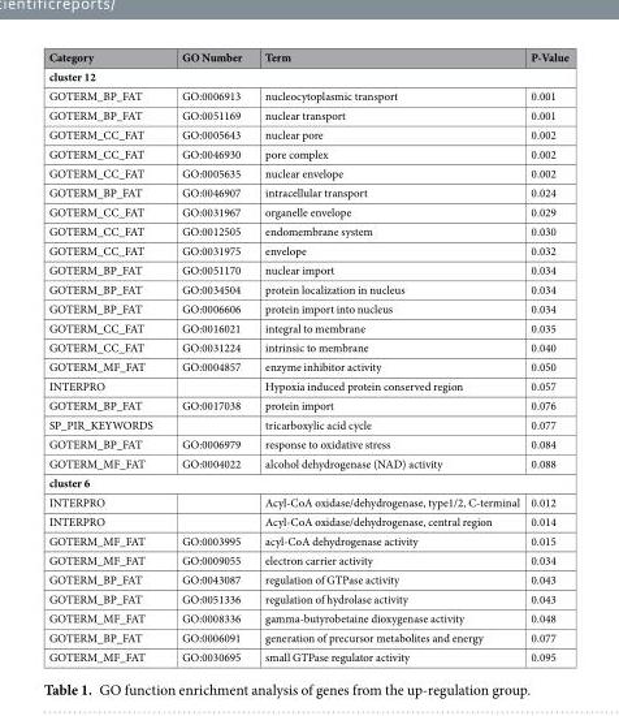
<table><thead><tr><td>Category</td><td>GO Number</td><td>Term</td><td>P-Value</td></tr></thead><tbody><tr><td colspan="4">cluster 12</td></tr><tr><td>GOTERM_BP_FAT</td><td>GO:0006913</td><td>nucleocytoplasmic transport</td><td>0.001</td></tr><tr><td>GOTERM_BP_FAT</td><td>GO:0051169</td><td>nuclear transport</td><td>0.001</td></tr><tr><td>GOTERM_CC_FAT</td><td>GO:0005643</td><td>nuclear pore</td><td>0.002</td></tr><tr><td>GOTERM_CC_FAT</td><td>GO:0046930</td><td>pore complex</td><td>0.002</td></tr><tr><td>GOTERM_CC_FAT</td><td>GO:0005635</td><td>nuclear envelope</td><td>0.002</td></tr><tr><td>GOTERM_BP_FAT</td><td>GO:0046907</td><td>intracellular transport</td><td>0.024</td></tr><tr><td>GOTERM_CC_FAT</td><td>GO:0031967</td><td>organelle envelope</td><td>0.029</td></tr><tr><td>GOTERM_CC_FAT</td><td>GO:0012505</td><td>endomembrane system</td><td>0.030</td></tr><tr><td>GOTERM_CC_FAT</td><td>GO:0031975</td><td>envelope</td><td>0.032</td></tr><tr><td>GOTERM_BP_FAT</td><td>GO:0051170</td><td>nuclear import</td><td>0.034</td></tr><tr><td>GOTERM_BP_FAT</td><td>GO:0034504</td><td>protein localization in nucleus</td><td>0.034</td></tr><tr><td>GOTERM_BP_FAT</td><td>GO:0006606</td><td>protein import into nucleus</td><td>0.034</td></tr><tr><td>GOTERM_CC_FAT</td><td>GO:0016021</td><td>integral to membrane</td><td>0.035</td></tr><tr><td>GOTERM_CC_FAT</td><td>GO:0031224</td><td>intrinsic to membrane</td><td>0.040</td></tr><tr><td>GOTERM_MF_FAT</td><td>GO:0004857</td><td>enzyme inhibitor activity</td><td>0.050</td></tr><tr><td>INTERPRO</td><td></td><td>Hypoxia induced protein conserved region</td><td>0.057</td></tr><tr><td>GOTERM_BP_FAT</td><td>GO:0017038</td><td>protein import</td><td>0.076</td></tr><tr><td>SP_PIR_KEYWORDS</td><td></td><td>tricarboxylic acid cycle</td><td>0.077</td></tr><tr><td>GOTERM_BP_FAT</td><td>GO:0006979</td><td>response to oxidative stress</td><td>0.084</td></tr><tr><td>GOTERM_MF_FAT</td><td>GO:0004022</td><td>alcohol dehydrogenase (NAD) activity</td><td>0.088</td></tr><tr><td colspan="4">cluster 6</td></tr><tr><td>INTERPRO</td><td></td><td>Acyl-CoA oxidase/dehydrogenase, type1/2, C-terminal</td><td>0.012</td></tr><tr><td>INTERPRO</td><td></td><td>Acyl-CoA oxidase/dehydrogenase, central region</td><td>0.014</td></tr><tr><td>GOTERM_MF_FAT</td><td>GO:0003995</td><td>acyl-CoA dehydrogenase activity</td><td>0.015</td></tr><tr><td>GOTERM_MF_FAT</td><td>GO:0009055</td><td>electron carrier activity</td><td>0.034</td></tr><tr><td>GOTERM_BP_FAT</td><td>GO:0043087</td><td>regulation of GTPase activity</td><td>0.043</td></tr><tr><td>GOTERM_BP_FAT</td><td>GO:0051336</td><td>regulation of hydrolase activity</td><td>0.043</td></tr><tr><td>GOTERM_MF_FAT</td><td>GO:0008336</td><td>gamma-butyrobetaine dioxygenase activity</td><td>0.048</td></tr><tr><td>GOTERM_BP_FAT</td><td>GO:0006091</td><td>generation of precursor metabolites and energy</td><td>0.077</td></tr><tr><td>GOTERM_MF_FAT</td><td>GO:0030695</td><td>small GTPase regulator activity</td><td>0.095</td></tr></tbody></table>